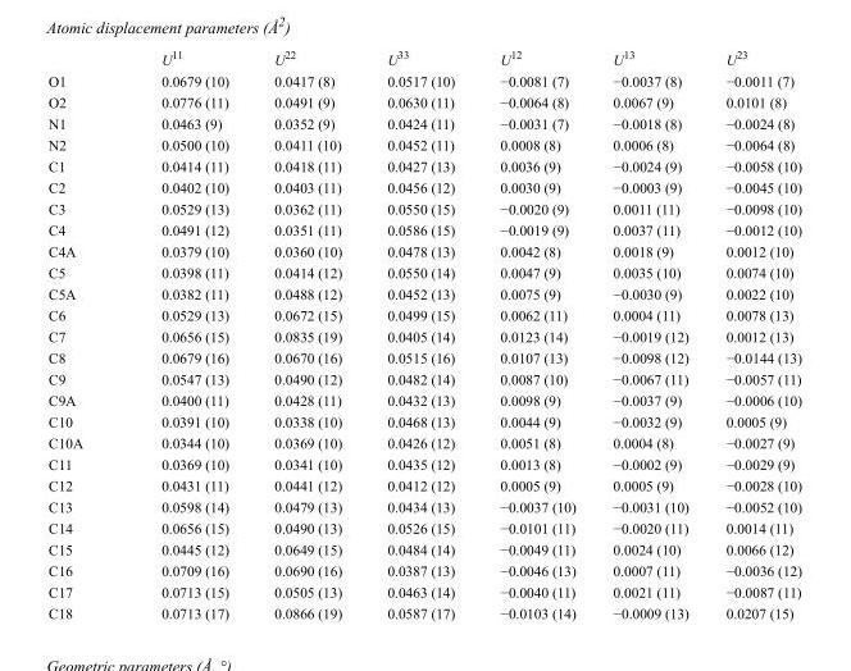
<table><thead><tr><td></td><td>U<sup>11</sup></td><td>U<sup>22</sup></td><td>U<sup>33</sup></td><td>U<sup>12</sup></td><td>U<sup>13</sup></td><td>U<sup>23</sup></td></tr></thead><tbody><tr><td>O1</td><td>0.0679 (10)</td><td>0.0417 (8)</td><td>0.0517 (10)</td><td>−0.0081 (7)</td><td>−0.0037 (8)</td><td>−0.0011 (7)</td></tr><tr><td>O2</td><td>0.0776 (11)</td><td>0.0491 (9)</td><td>0.0630 (11)</td><td>−0.0064 (8)</td><td>0.0067 (9)</td><td>0.0101 (8)</td></tr><tr><td>N1</td><td>0.0463 (9)</td><td>0.0352 (9)</td><td>0.0424 (11)</td><td>−0.0031 (7)</td><td>−0.0018 (8)</td><td>−0.0024 (8)</td></tr><tr><td>N2</td><td>0.0500 (10)</td><td>0.0411 (10)</td><td>0.0452 (11)</td><td>0.0008 (8)</td><td>0.0006 (8)</td><td>−0.0064 (8)</td></tr><tr><td>C1</td><td>0.0414 (11)</td><td>0.0418 (11)</td><td>0.0427 (13)</td><td>0.0036 (9)</td><td>−0.0024 (9)</td><td>−0.0058 (10)</td></tr><tr><td>C2</td><td>0.0402 (10)</td><td>0.0403 (11)</td><td>0.0456 (12)</td><td>0.0030 (9)</td><td>−0.0003 (9)</td><td>−0.0045 (10)</td></tr><tr><td>C3</td><td>0.0529 (13)</td><td>0.0362 (11)</td><td>0.0550 (15)</td><td>−0.0020 (9)</td><td>0.0011 (11)</td><td>−0.0098 (10)</td></tr><tr><td>C4</td><td>0.0491 (12)</td><td>0.0351 (11)</td><td>0.0586 (15)</td><td>−0.0019 (9)</td><td>0.0037 (11)</td><td>−0.0012 (10)</td></tr><tr><td>C4A</td><td>0.0379 (10)</td><td>0.0360 (10)</td><td>0.0478 (13)</td><td>0.0042 (8)</td><td>0.0018 (9)</td><td>0.0012 (10)</td></tr><tr><td>C5</td><td>0.0398 (11)</td><td>0.0414 (12)</td><td>0.0550 (14)</td><td>0.0047 (9)</td><td>0.0035 (10)</td><td>0.0074 (10)</td></tr><tr><td>C5A</td><td>0.0382 (11)</td><td>0.0488 (12)</td><td>0.0452 (13)</td><td>0.0075 (9)</td><td>−0.0030 (9)</td><td>0.0022 (10)</td></tr><tr><td>C6</td><td>0.0529 (13)</td><td>0.0672 (15)</td><td>0.0499 (15)</td><td>0.0062 (11)</td><td>0.0004 (11)</td><td>0.0078 (13)</td></tr><tr><td>C7</td><td>0.0656 (15)</td><td>0.0835 (19)</td><td>0.0405 (14)</td><td>0.0123 (14)</td><td>−0.0019 (12)</td><td>0.0012 (13)</td></tr><tr><td>C8</td><td>0.0679 (16)</td><td>0.0670 (16)</td><td>0.0515 (16)</td><td>0.0107 (13)</td><td>−0.0098 (12)</td><td>−0.0144 (13)</td></tr><tr><td>C9</td><td>0.0547 (13)</td><td>0.0490 (12)</td><td>0.0482 (14)</td><td>0.0087 (10)</td><td>−0.0067 (11)</td><td>−0.0057 (11)</td></tr><tr><td>C9A</td><td>0.0400 (11)</td><td>0.0428 (11)</td><td>0.0432 (13)</td><td>0.0098 (9)</td><td>−0.0037 (9)</td><td>−0.0006 (10)</td></tr><tr><td>C10</td><td>0.0391 (10)</td><td>0.0338 (10)</td><td>0.0468 (13)</td><td>0.0044 (9)</td><td>−0.0032 (9)</td><td>0.0005 (9)</td></tr><tr><td>C10A</td><td>0.0344 (10)</td><td>0.0369 (10)</td><td>0.0426 (12)</td><td>0.0051 (8)</td><td>0.0004 (8)</td><td>−0.0027 (9)</td></tr><tr><td>C11</td><td>0.0369 (10)</td><td>0.0341 (10)</td><td>0.0435 (12)</td><td>0.0013 (8)</td><td>−0.0002 (9)</td><td>−0.0029 (9)</td></tr><tr><td>C12</td><td>0.0431 (11)</td><td>0.0441 (12)</td><td>0.0412 (12)</td><td>0.0005 (9)</td><td>0.0005 (9)</td><td>−0.0028 (10)</td></tr><tr><td>C13</td><td>0.0598 (14)</td><td>0.0479 (13)</td><td>0.0434 (13)</td><td>−0.0037 (10)</td><td>−0.0031 (10)</td><td>−0.0052 (10)</td></tr><tr><td>C14</td><td>0.0656 (15)</td><td>0.0490 (13)</td><td>0.0526 (15)</td><td>−0.0101 (11)</td><td>−0.0020 (11)</td><td>0.0014 (11)</td></tr><tr><td>C15</td><td>0.0445 (12)</td><td>0.0649 (15)</td><td>0.0484 (14)</td><td>−0.0049 (11)</td><td>0.0024 (10)</td><td>0.0066 (12)</td></tr><tr><td>C16</td><td>0.0709 (16)</td><td>0.0690 (16)</td><td>0.0387 (13)</td><td>−0.0046 (13)</td><td>0.0007 (11)</td><td>−0.0036 (12)</td></tr><tr><td>C17</td><td>0.0713 (15)</td><td>0.0505 (13)</td><td>0.0463 (14)</td><td>−0.0040 (11)</td><td>0.0021 (11)</td><td>−0.0087 (11)</td></tr><tr><td>C18</td><td>0.0713 (17)</td><td>0.0866 (19)</td><td>0.0587 (17)</td><td>−0.0103 (14)</td><td>−0.0009 (13)</td><td>0.0207 (15)</td></tr></tbody></table>